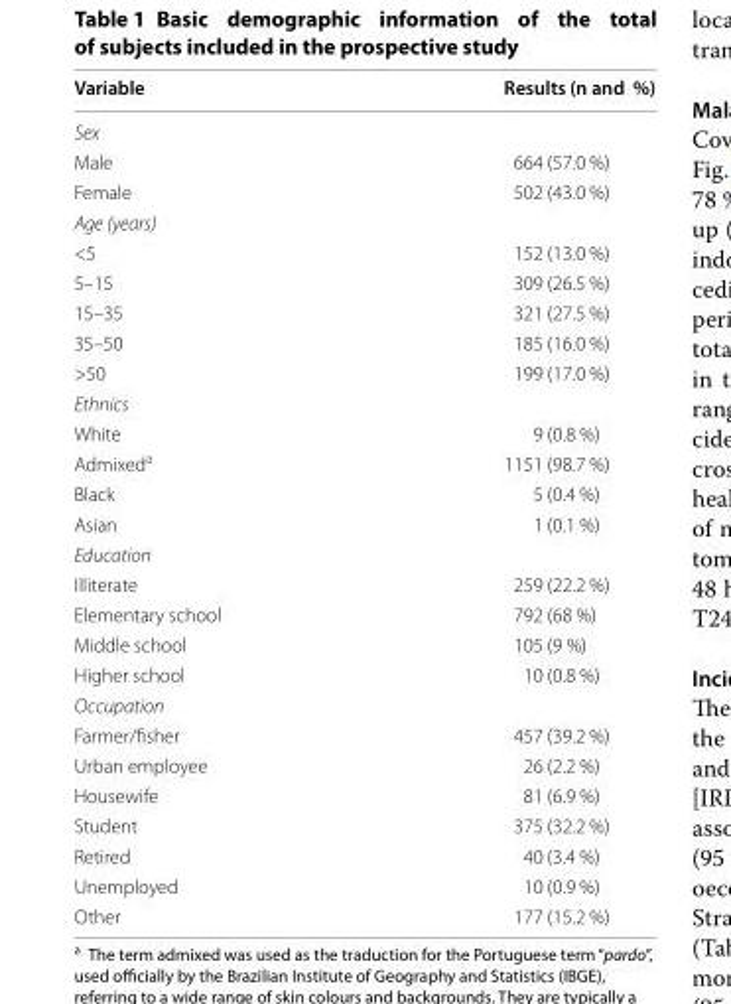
<table><thead><tr><td>Variable</td><td>Results (n and %)</td></tr></thead><tbody><tr><td colspan="2">Sex</td></tr><tr><td>Male</td><td>664 (57.0 %)</td></tr><tr><td>Female</td><td>502 (43.0 %)</td></tr><tr><td colspan="2">Age (years)</td></tr><tr><td>&lt;5</td><td>152 (13.0 %)</td></tr><tr><td>5–15</td><td>309 (26.5 %)</td></tr><tr><td>15–35</td><td>321 (27.5 %)</td></tr><tr><td>35–50</td><td>185 (16.0 %)</td></tr><tr><td>&gt;50</td><td>199 (17.0 %)</td></tr><tr><td colspan="2">Ethnics</td></tr><tr><td>White</td><td>9 (0.8 %)</td></tr><tr><td>Admixed<sup>a</sup></td><td>1151 (98.7 %)</td></tr><tr><td>Black</td><td>5 (0.4 %)</td></tr><tr><td>Asian</td><td>1 (0.1 %)</td></tr><tr><td colspan="2">Education</td></tr><tr><td>Illiterate</td><td>259 (22.2 %)</td></tr><tr><td>Elementary school</td><td>792 (68 %)</td></tr><tr><td>Middle school</td><td>105 (9 %)</td></tr><tr><td>Higher school</td><td>10 (0.8 %)</td></tr><tr><td colspan="2">Occupation</td></tr><tr><td>Farmer/fisher</td><td>457 (39.2 %)</td></tr><tr><td>Urban employee</td><td>26 (2.2 %)</td></tr><tr><td>Housewife</td><td>81 (6.9 %)</td></tr><tr><td>Student</td><td>375 (32.2 %)</td></tr><tr><td>Retired</td><td>40 (3.4 %)</td></tr><tr><td>Unemployed</td><td>10 (0.9 %)</td></tr><tr><td>Other</td><td>177 (15.2 %)</td></tr></tbody></table>